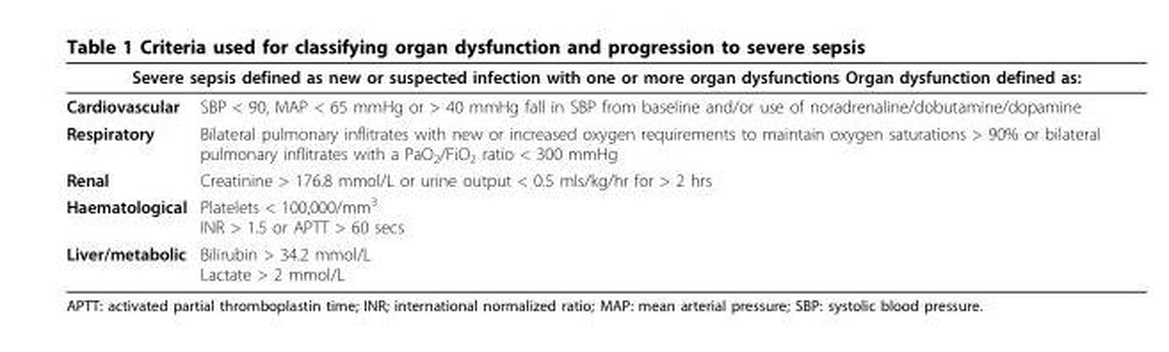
<table><thead><tr><td colspan="2">Severe sepsis defined as new or suspected infection with one or more organ dysfunctions Organ dysfunction defined as:</td></tr><tr><td>Cardiovascular</td><td>SBP &lt; 90, MAP &lt; 65 mmHg or &gt; 40 mmHg fall in SBP from baseline and/or use of noradrenaline/dobutamine/dopamine</td></tr></thead><tbody><tr><td>Respiratory</td><td>Bilateral pulmonary inflitrates with new or increased oxygen requirements to maintain oxygen saturations &gt; 90% or bilateral pulmonary inflitrates with a PaO<sub>2</sub>/FiO<sub>2</sub> ratio &lt; 300 mmHg</td></tr><tr><td>Renal</td><td>Creatinine &gt; 176.8 mmol/L or urine output &lt; 0.5 mls/kg/hr for &gt; 2 hrs</td></tr><tr><td>Haematological</td><td>Platelets &lt; 100,000/mm<sup>3</sup> INR &gt; 1.5 or APTT &gt; 60 secs</td></tr><tr><td>Liver/metabolic</td><td>Bilirubin &gt; 34.2 mmol/L Lactate &gt; 2 mmol/L</td></tr></tbody></table>